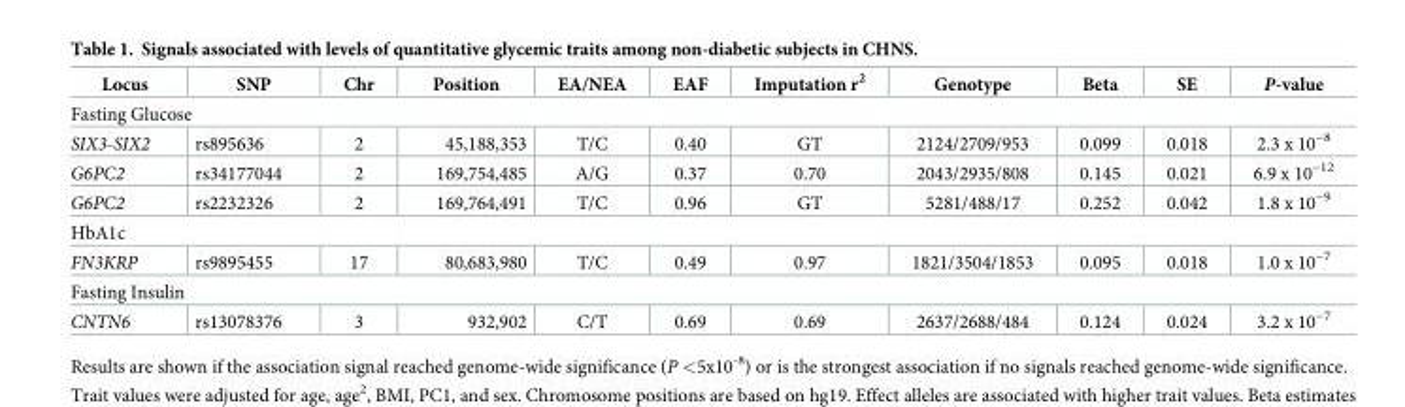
<table><thead><tr><td>Locus</td><td>SNP</td><td>Chr</td><td>Position</td><td>EA/NEA</td><td>EAF</td><td>Imputation r<sup>2</sup></td><td>Genotype</td><td>Beta</td><td>SE</td><td>P-value</td></tr></thead><tbody><tr><td colspan="11">Fasting Glucose</td></tr><tr><td>SIX3-SIX2</td><td>rs895636</td><td>2</td><td>45,188,353</td><td>T/C</td><td>0.40</td><td>GT</td><td>2124/2709/953</td><td>0.099</td><td>0.018</td><td>2.3 x 10<sup>−8</sup></td></tr><tr><td>G6PC2</td><td>rs34177044</td><td>2</td><td>169,754,485</td><td>A/G</td><td>0.37</td><td>0.70</td><td>2043/2935/808</td><td>0.145</td><td>0.021</td><td>6.9 x 10<sup>−12</sup></td></tr><tr><td>G6PC2</td><td>rs2232326</td><td>2</td><td>169,764,491</td><td>T/C</td><td>0.96</td><td>GT</td><td>5281/488/17</td><td>0.252</td><td>0.042</td><td>1.8 x 10<sup>−9</sup></td></tr><tr><td colspan="11">HbA1c</td></tr><tr><td>FN3KRP</td><td>rs9895455</td><td>17</td><td>80,683,980</td><td>T/C</td><td>0.49</td><td>0.97</td><td>1821/3504/1853</td><td>0.095</td><td>0.018</td><td>1.0 x 10<sup>−7</sup></td></tr><tr><td colspan="11">Fasting Insulin</td></tr><tr><td>CNTN6</td><td>rs13078376</td><td>3</td><td>932,902</td><td>C/T</td><td>0.69</td><td>0.69</td><td>2637/2688/484</td><td>0.124</td><td>0.024</td><td>3.2 x 10<sup>−7</sup></td></tr></tbody></table>